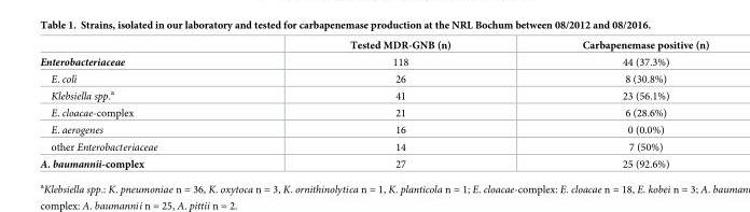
<table><thead><tr><td></td><td>Tested MDR-GNB (n)</td><td>Carbapenemase positive (n)</td></tr></thead><tbody><tr><td>Enterobacteriaceae</td><td>118</td><td>44 (37.3%)</td></tr><tr><td>E. coli</td><td>26</td><td>8 (30.8%)</td></tr><tr><td>Klebsiella spp.<sup>a</sup></td><td>41</td><td>23 (56.1%)</td></tr><tr><td>E. cloacae-complex</td><td>21</td><td>6 (28.6%)</td></tr><tr><td>E. aerogenes</td><td>16</td><td>0 (0.0%)</td></tr><tr><td>other Enterobacteriaceae</td><td>14</td><td>7 (50%)</td></tr><tr><td>A. baumannii-complex</td><td>27</td><td>25 (92.6%)</td></tr></tbody></table>